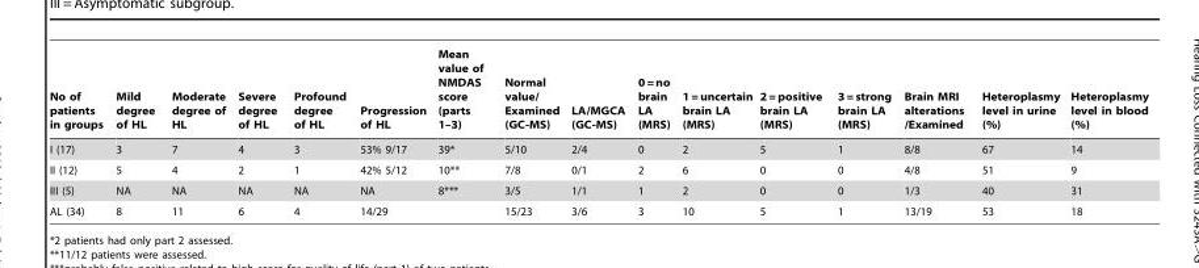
<table><thead><tr><td>No of patients in groups</td><td>Mild degree of HL</td><td>Moderate degree of HL</td><td>Severe degree of HL</td><td>Profound degree of HL</td><td>Progression of HL</td><td>Mean value of NMDAS score (parts 1–3)</td><td>Normal value/ Examined (GC-MS)</td><td>LA/MGCA (GC-MS)</td><td>0 = no brain LA (MRS)</td><td>1 = uncertain brain LA (MRS)</td><td>2 = positive brain LA (MRS)</td><td>3 = strong brain LA (MRS)</td><td>Brain MRI alterations /Examined</td><td>Heteroplasmy level in urine (%)</td><td>Heteroplasmy level in blood (%)</td></tr></thead><tbody><tr><td>I (17)</td><td>3</td><td>7</td><td>4</td><td>3</td><td>53% 9/17</td><td>39*</td><td>5/10</td><td>2/4</td><td>0</td><td>2</td><td>5</td><td>1</td><td>8/8</td><td>67</td><td>14</td></tr><tr><td>II (12)</td><td>5</td><td>4</td><td>2</td><td>1</td><td>42% 5/12</td><td>10**</td><td>7/8</td><td>0/1</td><td>2</td><td>6</td><td>0</td><td>0</td><td>4/8</td><td>51</td><td>9</td></tr><tr><td>III (5)</td><td>NA</td><td>NA</td><td>NA</td><td>NA</td><td>NA</td><td>8***</td><td>3/5</td><td>1/1</td><td>1</td><td>2</td><td>0</td><td>0</td><td>1/3</td><td>40</td><td>31</td></tr><tr><td>AL (34)</td><td>8</td><td>11</td><td>6</td><td>4</td><td>14/29</td><td></td><td>15/23</td><td>3/6</td><td>3</td><td>10</td><td>5</td><td>1</td><td>13/19</td><td>53</td><td>18</td></tr></tbody></table>